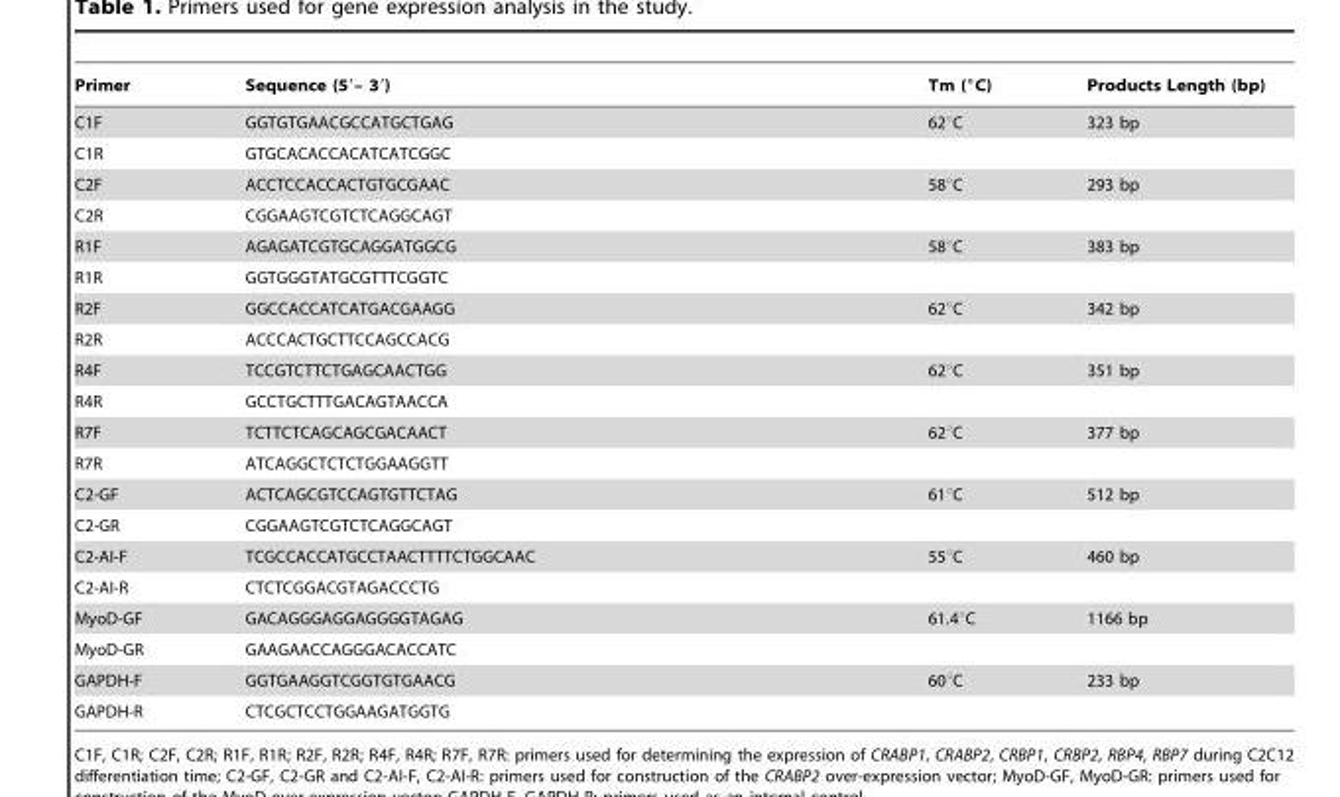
<table><thead><tr><td>Primer</td><td>Sequence (5′– 3′)</td><td>Tm (°C)</td><td>Products Length (bp)</td></tr></thead><tbody><tr><td>C1F</td><td>GGTGTGAACGCCATGCTGAG</td><td>62°C</td><td>323 bp</td></tr><tr><td>C1R</td><td>GTGCACACCACATCATCGGC</td><td></td><td></td></tr><tr><td>C2F</td><td>ACCTCCACCACTGTGCGAAC</td><td>58°C</td><td>293 bp</td></tr><tr><td>C2R</td><td>CGGAAGTCGTCTCAGGCAGT</td><td></td><td></td></tr><tr><td>R1F</td><td>AGAGATCGTGCAGGATGGCG</td><td>58°C</td><td>383 bp</td></tr><tr><td>R1R</td><td>GGTGGGTATGCGTTTCGGTC</td><td></td><td></td></tr><tr><td>R2F</td><td>GGCCACCATCATGACGAAGG</td><td>62°C</td><td>342 bp</td></tr><tr><td>R2R</td><td>ACCCACTGCTTCCAGCCACG</td><td></td><td></td></tr><tr><td>R4F</td><td>TCCGTCTTCTGAGCAACTGG</td><td>62°C</td><td>351 bp</td></tr><tr><td>R4R</td><td>GCCTGCTTTGACAGTAACCA</td><td></td><td></td></tr><tr><td>R7F</td><td>TCTTCTCAGCAGCGACAACT</td><td>62°C</td><td>377 bp</td></tr><tr><td>R7R</td><td>ATCAGGCTCTCTGGAAGGTT</td><td></td><td></td></tr><tr><td>C2-GF</td><td>ACTCAGCGTCCAGTGTTCTAG</td><td>61°C</td><td>512 bp</td></tr><tr><td>C2-GR</td><td>CGGAAGTCGTCTCAGGCAGT</td><td></td><td></td></tr><tr><td>C2-AI-F</td><td>TCGCCACCATGCCTAACTTTTCTGGCAAC</td><td>55°C</td><td>460 bp</td></tr><tr><td>C2-AI-R</td><td>CTCTCGGACGTAGACCCTG</td><td></td><td></td></tr><tr><td>MyoD-GF</td><td>GACAGGGAGGAGGGGTAGAG</td><td>61.4°C</td><td>1166 bp</td></tr><tr><td>MyoD-GR</td><td>GAAGAACCAGGGACACCATC</td><td></td><td></td></tr><tr><td>GAPDH-F</td><td>GGTGAAGGTCGGTGTGAACG</td><td>60°C</td><td>233 bp</td></tr><tr><td>GAPDH-R</td><td>CTCGCTCCTGGAAGATGGTG</td><td></td><td></td></tr></tbody></table>